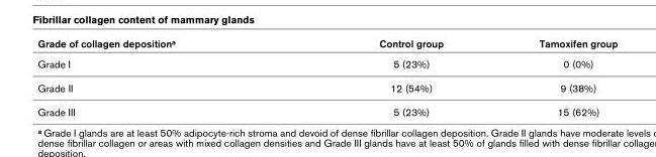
<table><thead><tr><td>Grade of collagen deposition<sup>a</sup></td><td>Control group</td><td>Tamoxifen group</td></tr></thead><tbody><tr><td>Grade I</td><td>5 (23%)</td><td>0 (0%)</td></tr><tr><td>Grade II</td><td>12 (54%)</td><td>9 (38%)</td></tr><tr><td>Grade III</td><td>5 (23%)</td><td>15 (62%)</td></tr></tbody></table>